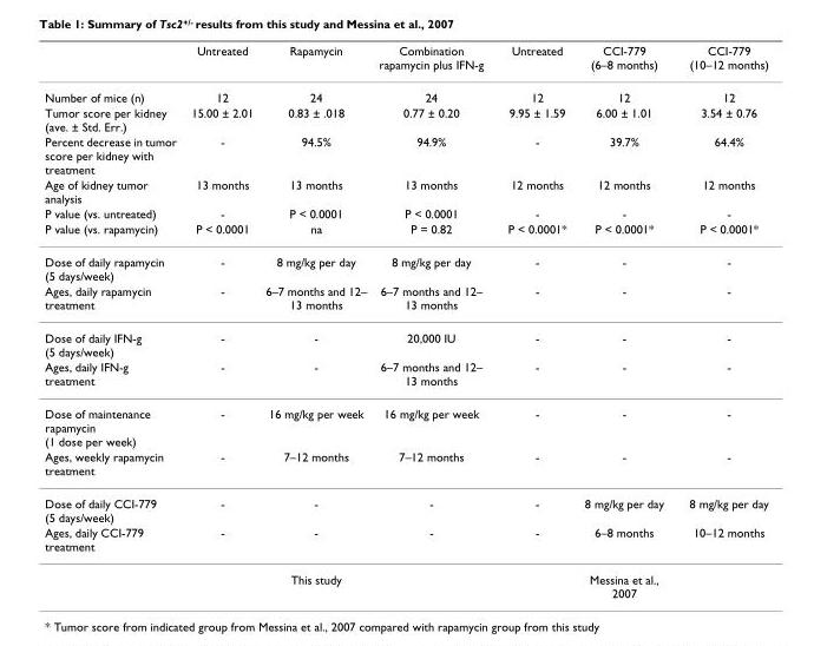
<table><thead><tr><td></td><td>Untreated</td><td>Rapamycin</td><td>Combination rapamycin plus IFN-g</td><td>Untreated</td><td>CCI-779 (6–8 months)</td><td>CCI-779 (10–12 months)</td></tr></thead><tbody><tr><td>Number of mice (n)</td><td>12</td><td>24</td><td>24</td><td>12</td><td>12</td><td>12</td></tr><tr><td>Tumor score per kidney (ave. ± Std. Err.)</td><td>15.00 ± 2.01</td><td>0.83 ± .018</td><td>0.77 ± 0.20</td><td>9.95 ± 1.59</td><td>6.00 ± 1.01</td><td>3.54 ± 0.76</td></tr><tr><td>Percent decrease in tumor score per kidney with treatment</td><td>-</td><td>94.5%</td><td>94.9%</td><td>-</td><td>39.7%</td><td>64.4%</td></tr><tr><td>Age of kidney tumor analysis</td><td>13 months</td><td>13 months</td><td>13 months</td><td>12 months</td><td>12 months</td><td>12 months</td></tr><tr><td>P value (vs. untreated)</td><td>-</td><td>P &lt; 0.0001</td><td>P &lt; 0.0001</td><td>-</td><td>-</td><td>-</td></tr><tr><td>P value (vs. rapamycin)</td><td>P &lt; 0.0001</td><td>na</td><td>P = 0.82</td><td>P &lt; 0.0001*</td><td>P &lt; 0.0001*</td><td>P &lt; 0.0001*</td></tr><tr><td>Dose of daily rapamycin (5 days/week)</td><td>-</td><td>8 mg/kg per day</td><td>8 mg/kg per day</td><td>-</td><td>-</td><td>-</td></tr><tr><td>Ages, daily rapamycin treatment</td><td>-</td><td>6–7 months and 12– 13 months</td><td>6–7 months and 12– 13 months</td><td>-</td><td>-</td><td>-</td></tr><tr><td>Dose of daily IFN-g (5 days/week)</td><td>-</td><td>-</td><td>20,000 IU</td><td>-</td><td>-</td><td>-</td></tr><tr><td>Ages, daily IFN-g treatment</td><td>-</td><td>-</td><td>6–7 months and 12– 13 months</td><td>-</td><td>-</td><td>-</td></tr><tr><td>Dose of maintenance rapamycin (1 dose per week)</td><td>-</td><td>16 mg/kg per week</td><td>16 mg/kg per week</td><td>-</td><td>-</td><td>-</td></tr><tr><td>Ages, weekly rapamycin treatment</td><td>-</td><td>7–12 months</td><td>7–12 months</td><td>-</td><td>-</td><td>-</td></tr><tr><td>Dose of daily CCI-779 (5 days/week)</td><td>-</td><td>-</td><td>-</td><td>-</td><td>8 mg/kg per day</td><td>8 mg/kg per day</td></tr><tr><td rowspan="2">Ages, daily CCI-779 treatment</td><td>-</td><td>-</td><td>-</td><td>-</td><td>6–8 months</td><td>10–12 months</td></tr><tr><td></td><td>This study</td><td></td><td></td><td>Messina et al., 2007</td><td></td></tr></tbody></table>